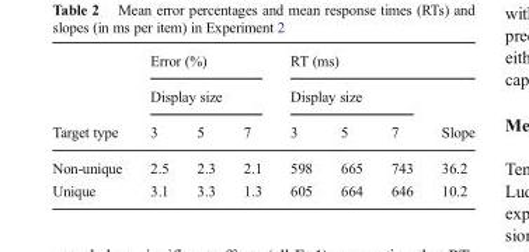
<table><thead><tr><td rowspan="3">Target type</td><td rowspan="2" colspan="3">Error (%) Display size</td><td colspan="4">RT (ms)</td></tr><tr><td colspan="3">Display size</td><td rowspan="2">Slope</td></tr><tr><td>3</td><td>5</td><td>7</td><td>3</td><td>5</td><td>7</td></tr></thead><tbody><tr><td>Non-unique</td><td>2.5</td><td>2.3</td><td>2.1</td><td>598</td><td>665</td><td>743</td><td>36.2</td></tr><tr><td>Unique</td><td>3.1</td><td>3.3</td><td>1.3</td><td>605</td><td>664</td><td>646</td><td>10.2</td></tr></tbody></table>